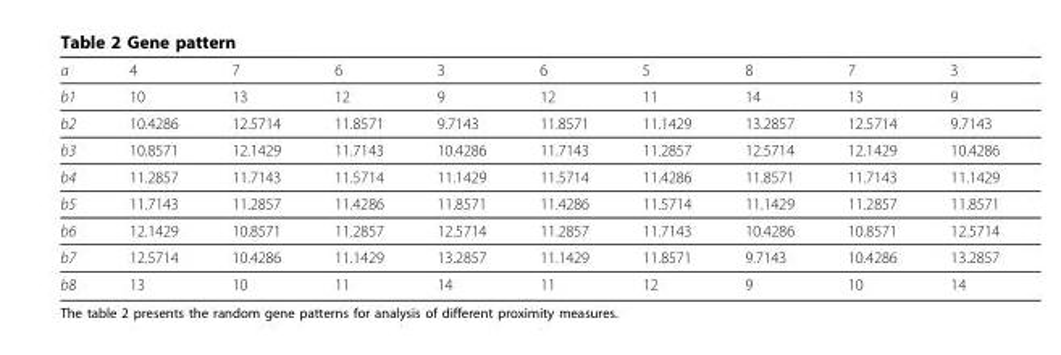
<table><thead><tr><td>a</td><td>4</td><td>7</td><td>6</td><td>3</td><td>6</td><td>5</td><td>8</td><td>7</td><td>3</td></tr></thead><tbody><tr><td>b1</td><td>10</td><td>13</td><td>12</td><td>9</td><td>12</td><td>11</td><td>14</td><td>13</td><td>9</td></tr><tr><td>b2</td><td>10.4286</td><td>12.5714</td><td>11.8571</td><td>9.7143</td><td>11.8571</td><td>11.1429</td><td>13.2857</td><td>12.5714</td><td>9.7143</td></tr><tr><td>b3</td><td>10.8571</td><td>12.1429</td><td>11.7143</td><td>10.4286</td><td>11.7143</td><td>11.2857</td><td>12.5714</td><td>12.1429</td><td>10.4286</td></tr><tr><td>b4</td><td>11.2857</td><td>11.7143</td><td>11.5714</td><td>11.1429</td><td>11.5714</td><td>11.4286</td><td>11.8571</td><td>11.7143</td><td>11.1429</td></tr><tr><td>b5</td><td>11.7143</td><td>11.2857</td><td>11.4286</td><td>11.8571</td><td>11.4286</td><td>11.5714</td><td>11.1429</td><td>11.2857</td><td>11.8571</td></tr><tr><td>b6</td><td>12.1429</td><td>10.8571</td><td>11.2857</td><td>12.5714</td><td>11.2857</td><td>11.7143</td><td>10.4286</td><td>10.8571</td><td>12.5714</td></tr><tr><td>b7</td><td>12.5714</td><td>10.4286</td><td>11.1429</td><td>13.2857</td><td>11.1429</td><td>11.8571</td><td>9.7143</td><td>10.4286</td><td>13.2857</td></tr><tr><td>b8</td><td>13</td><td>10</td><td>11</td><td>14</td><td>11</td><td>12</td><td>9</td><td>10</td><td>14</td></tr></tbody></table>